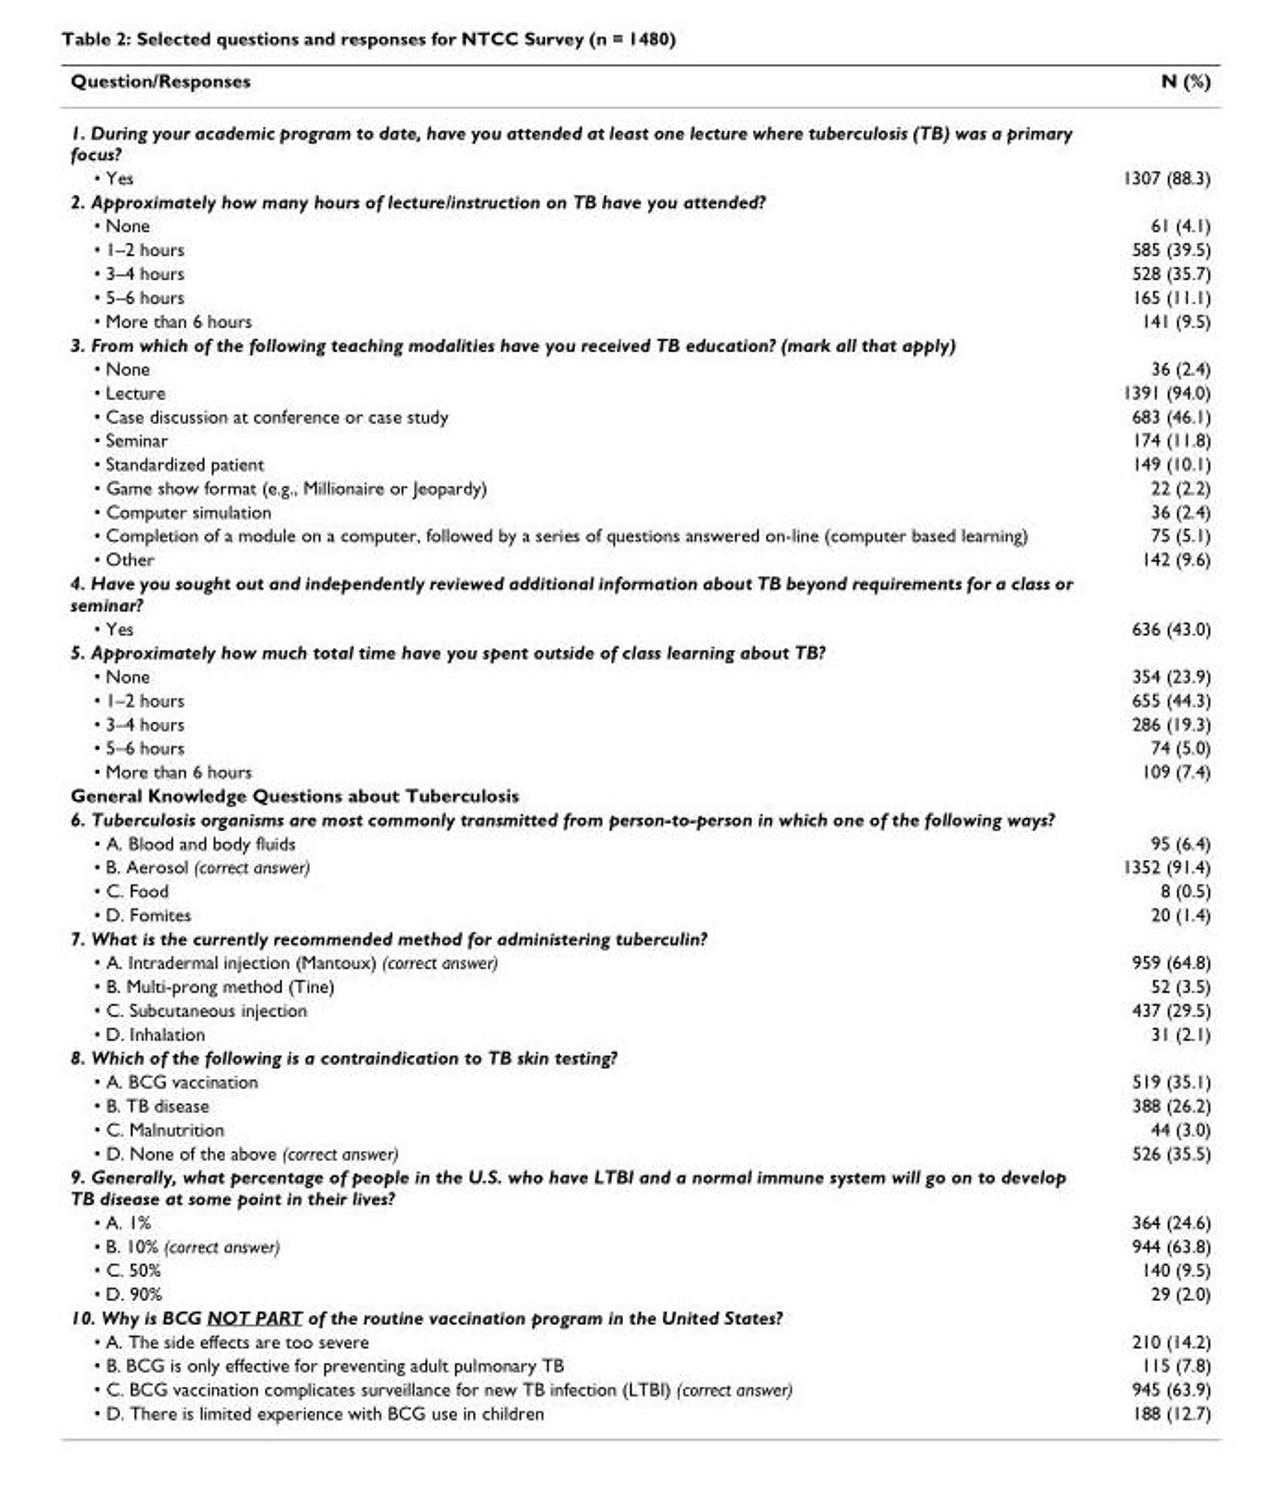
<table><thead><tr><td>Question/Responses</td><td>N (%)</td></tr></thead><tbody><tr><td colspan="2">1. During your academic program to date, have you attended at least one lecture where tuberculosis (TB) was a primary focus?</td></tr><tr><td>• Yes</td><td>1307 (88.3)</td></tr><tr><td colspan="2">2. Approximately how many hours of lecture/instruction on TB have you attended?</td></tr><tr><td>• None</td><td>61 (4.1)</td></tr><tr><td>• 1–2 hours</td><td>585 (39.5)</td></tr><tr><td>• 3–4 hours</td><td>528 (35.7)</td></tr><tr><td>• 5–6 hours</td><td>165 (11.1)</td></tr><tr><td>• More than 6 hours</td><td>141 (9.5)</td></tr><tr><td colspan="2">3. From which of the following teaching modalities have you received TB education? (mark all that apply)</td></tr><tr><td>• None</td><td>36 (2.4)</td></tr><tr><td>• Lecture</td><td>1391 (94.0)</td></tr><tr><td>• Case discussion at conference or case study</td><td>683 (46.1)</td></tr><tr><td>• Seminar</td><td>174 (11.8)</td></tr><tr><td>• Standardized patient</td><td>149 (10.1)</td></tr><tr><td>• Game show format (e.g., Millionaire or Jeopardy)</td><td>22 (2.2)</td></tr><tr><td>• Computer simulation</td><td>36 (2.4)</td></tr><tr><td>• Completion of a module on a computer, followed by a series of questions answered on-line (computer based learning)</td><td>75 (5.1)</td></tr><tr><td>• Other</td><td>142 (9.6)</td></tr><tr><td colspan="2">4. Have you sought out and independently reviewed additional information about TB beyond requirements for a class or seminar?</td></tr><tr><td>• Yes</td><td>636 (43.0)</td></tr><tr><td colspan="2">5. Approximately how much total time have you spent outside of class learning about TB?</td></tr><tr><td>• None</td><td>354 (23.9)</td></tr><tr><td>• 1–2 hours</td><td>655 (44.3)</td></tr><tr><td>• 3–4 hours</td><td>286 (19.3)</td></tr><tr><td>• 5–6 hours</td><td>74 (5.0)</td></tr><tr><td>• More than 6 hours</td><td>109 (7.4)</td></tr><tr><td colspan="2">General Knowledge Questions about Tuberculosis</td></tr><tr><td colspan="2">6. Tuberculosis organisms are most commonly transmitted from person-to-person in which one of the following ways?</td></tr><tr><td>• A. Blood and body fluids</td><td>95 (6.4)</td></tr><tr><td>• B. Aerosol (correct answer)</td><td>1352 (91.4)</td></tr><tr><td>• C. Food</td><td>8 (0.5)</td></tr><tr><td>• D. Fomites</td><td>20 (1.4)</td></tr><tr><td colspan="2">7. What is the currently recommended method for administering tuberculin?</td></tr><tr><td>• A. Intradermal injection (Mantoux) (correct answer)</td><td>959 (64.8)</td></tr><tr><td>• B. Multi-prong method (Tine)</td><td>52 (3.5)</td></tr><tr><td>• C. Subcutaneous injection</td><td>437 (29.5)</td></tr><tr><td>• D. Inhalation</td><td>31 (2.1)</td></tr><tr><td colspan="2">8. Which of the following is a contraindication to TB skin testing?</td></tr><tr><td>• A. BCG vaccination</td><td>519 (35.1)</td></tr><tr><td>• B. TB disease</td><td>388 (26.2)</td></tr><tr><td>• C. Malnutrition</td><td>44 (3.0)</td></tr><tr><td>• D. None of the above (correct answer)</td><td>526 (35.5)</td></tr><tr><td colspan="2">9. Generally, what percentage of people in the U.S. who have LTBI and a normal immune system will go on to develop TB disease at some point in their lives?</td></tr><tr><td>• A. 1%</td><td>364 (24.6)</td></tr><tr><td>• B. 10% (correct answer)</td><td>944 (63.8)</td></tr><tr><td>• C. 50%</td><td>140 (9.5)</td></tr><tr><td>• D. 90%</td><td>29 (2.0)</td></tr><tr><td colspan="2">10. Why is BCG NOT PART of the routine vaccination program in the United States?</td></tr><tr><td>• A. The side effects are too severe</td><td>210 (14.2)</td></tr><tr><td>• B. BCG is only effective for preventing adult pulmonary TB</td><td>115 (7.8)</td></tr><tr><td>• C. BCG vaccination complicates surveillance for new TB infection (LTBI) (correct answer)</td><td>945 (63.9)</td></tr><tr><td>• D. There is limited experience with BCG use in children</td><td>188 (12.7)</td></tr></tbody></table>